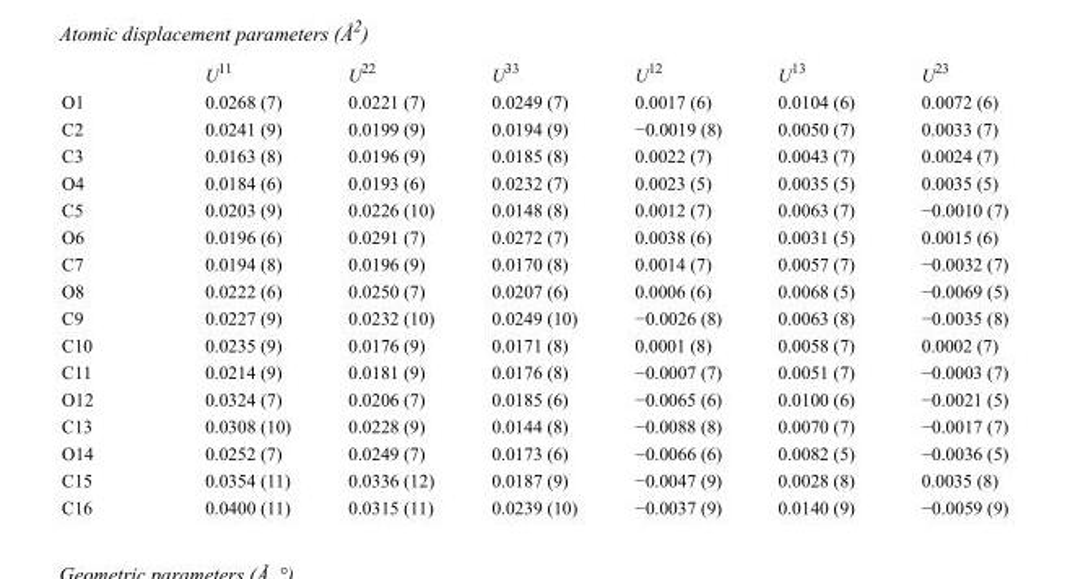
<table><thead><tr><td></td><td>U<sup>11</sup></td><td>U<sup>22</sup></td><td>U<sup>33</sup></td><td>U<sup>12</sup></td><td>U<sup>13</sup></td><td>U<sup>23</sup></td></tr></thead><tbody><tr><td>O1</td><td>0.0268 (7)</td><td>0.0221 (7)</td><td>0.0249 (7)</td><td>0.0017 (6)</td><td>0.0104 (6)</td><td>0.0072 (6)</td></tr><tr><td>C2</td><td>0.0241 (9)</td><td>0.0199 (9)</td><td>0.0194 (9)</td><td>−0.0019 (8)</td><td>0.0050 (7)</td><td>0.0033 (7)</td></tr><tr><td>C3</td><td>0.0163 (8)</td><td>0.0196 (9)</td><td>0.0185 (8)</td><td>0.0022 (7)</td><td>0.0043 (7)</td><td>0.0024 (7)</td></tr><tr><td>O4</td><td>0.0184 (6)</td><td>0.0193 (6)</td><td>0.0232 (7)</td><td>0.0023 (5)</td><td>0.0035 (5)</td><td>0.0035 (5)</td></tr><tr><td>C5</td><td>0.0203 (9)</td><td>0.0226 (10)</td><td>0.0148 (8)</td><td>0.0012 (7)</td><td>0.0063 (7)</td><td>−0.0010 (7)</td></tr><tr><td>O6</td><td>0.0196 (6)</td><td>0.0291 (7)</td><td>0.0272 (7)</td><td>0.0038 (6)</td><td>0.0031 (5)</td><td>0.0015 (6)</td></tr><tr><td>C7</td><td>0.0194 (8)</td><td>0.0196 (9)</td><td>0.0170 (8)</td><td>0.0014 (7)</td><td>0.0057 (7)</td><td>−0.0032 (7)</td></tr><tr><td>O8</td><td>0.0222 (6)</td><td>0.0250 (7)</td><td>0.0207 (6)</td><td>0.0006 (6)</td><td>0.0068 (5)</td><td>−0.0069 (5)</td></tr><tr><td>C9</td><td>0.0227 (9)</td><td>0.0232 (10)</td><td>0.0249 (10)</td><td>−0.0026 (8)</td><td>0.0063 (8)</td><td>−0.0035 (8)</td></tr><tr><td>C10</td><td>0.0235 (9)</td><td>0.0176 (9)</td><td>0.0171 (8)</td><td>0.0001 (8)</td><td>0.0058 (7)</td><td>0.0002 (7)</td></tr><tr><td>C11</td><td>0.0214 (9)</td><td>0.0181 (9)</td><td>0.0176 (8)</td><td>−0.0007 (7)</td><td>0.0051 (7)</td><td>−0.0003 (7)</td></tr><tr><td>O12</td><td>0.0324 (7)</td><td>0.0206 (7)</td><td>0.0185 (6)</td><td>−0.0065 (6)</td><td>0.0100 (6)</td><td>−0.0021 (5)</td></tr><tr><td>C13</td><td>0.0308 (10)</td><td>0.0228 (9)</td><td>0.0144 (8)</td><td>−0.0088 (8)</td><td>0.0070 (7)</td><td>−0.0017 (7)</td></tr><tr><td>O14</td><td>0.0252 (7)</td><td>0.0249 (7)</td><td>0.0173 (6)</td><td>−0.0066 (6)</td><td>0.0082 (5)</td><td>−0.0036 (5)</td></tr><tr><td>C15</td><td>0.0354 (11)</td><td>0.0336 (12)</td><td>0.0187 (9)</td><td>−0.0047 (9)</td><td>0.0028 (8)</td><td>0.0035 (8)</td></tr><tr><td>C16</td><td>0.0400 (11)</td><td>0.0315 (11)</td><td>0.0239 (10)</td><td>−0.0037 (9)</td><td>0.0140 (9)</td><td>−0.0059 (9)</td></tr></tbody></table>